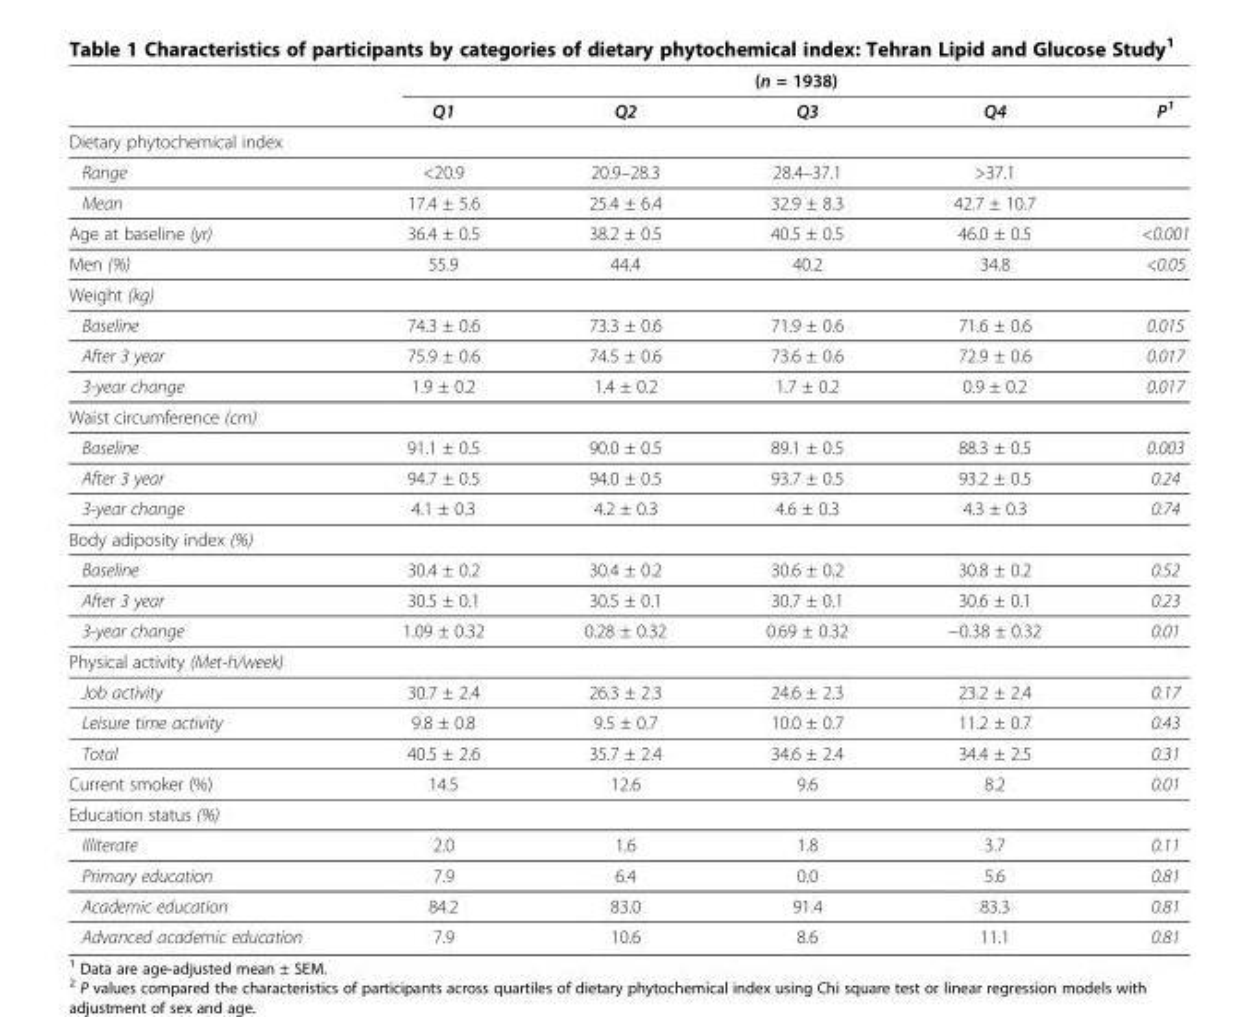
<table><thead><tr><td rowspan="2"></td><td colspan="5">(n = 1938)</td></tr><tr><td>Q1</td><td>Q2</td><td>Q3</td><td>Q4</td><td>P<sup>1</sup></td></tr></thead><tbody><tr><td colspan="6">Dietary phytochemical index</td></tr><tr><td>Range</td><td>&lt;20.9</td><td>20.9–28.3</td><td>28.4–37.1</td><td>&gt;37.1</td><td></td></tr><tr><td>Mean</td><td>17.4 ± 5.6</td><td>25.4 ± 6.4</td><td>32.9 ± 8.3</td><td>42.7 ± 10.7</td><td></td></tr><tr><td>Age at baseline (yr)</td><td>36.4 ± 0.5</td><td>38.2 ± 0.5</td><td>40.5 ± 0.5</td><td>46.0 ± 0.5</td><td>&lt;0.001</td></tr><tr><td>Men (%)</td><td>55.9</td><td>44.4</td><td>40.2</td><td>34.8</td><td>&lt;0.05</td></tr><tr><td colspan="6">Weight (kg)</td></tr><tr><td>Baseline</td><td>74.3 ± 0.6</td><td>73.3 ± 0.6</td><td>71.9 ± 0.6</td><td>71.6 ± 0.6</td><td>0.015</td></tr><tr><td>After 3 year</td><td>75.9 ± 0.6</td><td>74.5 ± 0.6</td><td>73.6 ± 0.6</td><td>72.9 ± 0.6</td><td>0.017</td></tr><tr><td>3-year change</td><td>1.9 ± 0.2</td><td>1.4 ± 0.2</td><td>1.7 ± 0.2</td><td>0.9 ± 0.2</td><td>0.017</td></tr><tr><td colspan="6">Waist circumference (cm)</td></tr><tr><td>Baseline</td><td>91.1 ± 0.5</td><td>90.0 ± 0.5</td><td>89.1 ± 0.5</td><td>88.3 ± 0.5</td><td>0.003</td></tr><tr><td>After 3 year</td><td>94.7 ± 0.5</td><td>94.0 ± 0.5</td><td>93.7 ± 0.5</td><td>93.2 ± 0.5</td><td>0.24</td></tr><tr><td>3-year change</td><td>4.1 ± 0.3</td><td>4.2 ± 0.3</td><td>4.6 ± 0.3</td><td>4.3 ± 0.3</td><td>0.74</td></tr><tr><td colspan="6">Body adiposity index (%)</td></tr><tr><td>Baseline</td><td>30.4 ± 0.2</td><td>30.4 ± 0.2</td><td>30.6 ± 0.2</td><td>30.8 ± 0.2</td><td>0.52</td></tr><tr><td>After 3 year</td><td>30.5 ± 0.1</td><td>30.5 ± 0.1</td><td>30.7 ± 0.1</td><td>30.6 ± 0.1</td><td>0.23</td></tr><tr><td>3-year change</td><td>1.09 ± 0.32</td><td>0.28 ± 0.32</td><td>0.69 ± 0.32</td><td>−0.38 ± 0.32</td><td>0.01</td></tr><tr><td colspan="6">Physical activity (Met-h/week)</td></tr><tr><td>Job activity</td><td>30.7 ± 2.4</td><td>26.3 ± 2.3</td><td>24.6 ± 2.3</td><td>23.2 ± 2.4</td><td>0.17</td></tr><tr><td>Leisure time activity</td><td>9.8 ± 0.8</td><td>9.5 ± 0.7</td><td>10.0 ± 0.7</td><td>11.2 ± 0.7</td><td>0.43</td></tr><tr><td>Total</td><td>40.5 ± 2.6</td><td>35.7 ± 2.4</td><td>34.6 ± 2.4</td><td>34.4 ± 2.5</td><td>0.31</td></tr><tr><td>Current smoker (%)</td><td>14.5</td><td>12.6</td><td>9.6</td><td>8.2</td><td>0.01</td></tr><tr><td colspan="6">Education status (%)</td></tr><tr><td>Illiterate</td><td>2.0</td><td>1.6</td><td>1.8</td><td>3.7</td><td>0.11</td></tr><tr><td>Primary education</td><td>7.9</td><td>6.4</td><td>0.0</td><td>5.6</td><td>0.81</td></tr><tr><td>Academic education</td><td>84.2</td><td>83.0</td><td>91.4</td><td>83.3</td><td>0.81</td></tr><tr><td>Advanced academic education</td><td>7.9</td><td>10.6</td><td>8.6</td><td>11.1</td><td>0.81</td></tr></tbody></table>